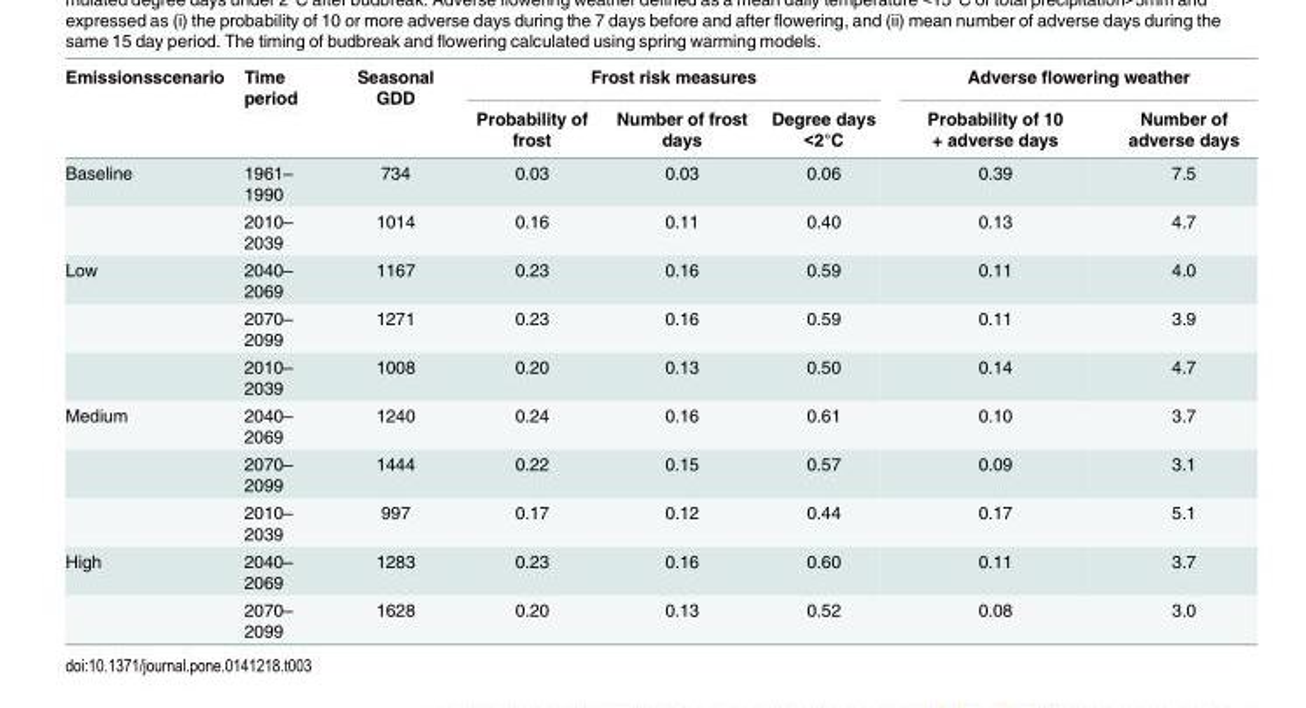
<table><thead><tr><td rowspan="2">Emissionsscenario</td><td rowspan="2">Time period</td><td rowspan="2">Seasonal GDD</td><td colspan="3">Frost risk measures</td><td colspan="2">Adverse flowering weather</td></tr><tr><td>Probability of frost</td><td>Number of frost days</td><td>Degree days &lt;2°C</td><td>Probability of 10 + adverse days</td><td>Number of adverse days</td></tr></thead><tbody><tr><td rowspan="2">Baseline</td><td>1961– 1990</td><td>734</td><td>0.03</td><td>0.03</td><td>0.06</td><td>0.39</td><td>7.5</td></tr><tr><td>2010– 2039</td><td>1014</td><td>0.16</td><td>0.11</td><td>0.40</td><td>0.13</td><td>4.7</td></tr><tr><td rowspan="3">Low</td><td>2040– 2069</td><td>1167</td><td>0.23</td><td>0.16</td><td>0.59</td><td>0.11</td><td>4.0</td></tr><tr><td>2070– 2099</td><td>1271</td><td>0.23</td><td>0.16</td><td>0.59</td><td>0.11</td><td>3.9</td></tr><tr><td>2010– 2039</td><td>1008</td><td>0.20</td><td>0.13</td><td>0.50</td><td>0.14</td><td>4.7</td></tr><tr><td rowspan="3">Medium</td><td>2040– 2069</td><td>1240</td><td>0.24</td><td>0.16</td><td>0.61</td><td>0.10</td><td>3.7</td></tr><tr><td>2070– 2099</td><td>1444</td><td>0.22</td><td>0.15</td><td>0.57</td><td>0.09</td><td>3.1</td></tr><tr><td>2010– 2039</td><td>997</td><td>0.17</td><td>0.12</td><td>0.44</td><td>0.17</td><td>5.1</td></tr><tr><td rowspan="2">High</td><td>2040– 2069</td><td>1283</td><td>0.23</td><td>0.16</td><td>0.60</td><td>0.11</td><td>3.7</td></tr><tr><td>2070– 2099</td><td>1628</td><td>0.20</td><td>0.13</td><td>0.52</td><td>0.08</td><td>3.0</td></tr></tbody></table>